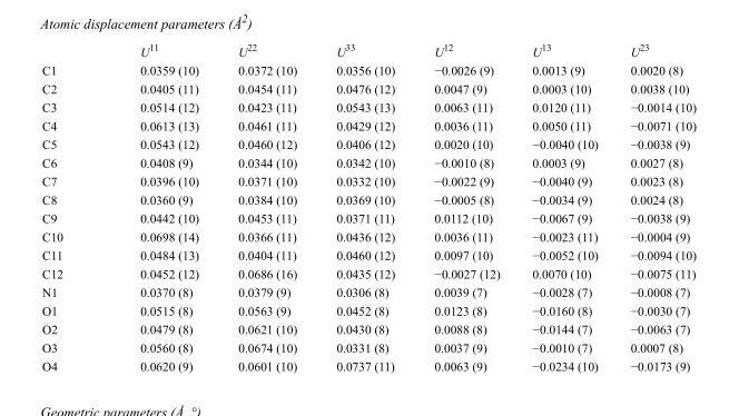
<table><thead><tr><td></td><td>U<sup>11</sup></td><td>U<sup>22</sup></td><td>U<sup>33</sup></td><td>U<sup>12</sup></td><td>U<sup>13</sup></td><td>U<sup>23</sup></td></tr></thead><tbody><tr><td>C1</td><td>0.0359 (10)</td><td>0.0372 (10)</td><td>0.0356 (10)</td><td>−0.0026 (9)</td><td>0.0013 (9)</td><td>0.0020 (8)</td></tr><tr><td>C2</td><td>0.0405 (11)</td><td>0.0454 (11)</td><td>0.0476 (12)</td><td>0.0047 (9)</td><td>0.0003 (10)</td><td>0.0038 (10)</td></tr><tr><td>C3</td><td>0.0514 (12)</td><td>0.0423 (11)</td><td>0.0543 (13)</td><td>0.0063 (11)</td><td>0.0120 (11)</td><td>−0.0014 (10)</td></tr><tr><td>C4</td><td>0.0613 (13)</td><td>0.0461 (11)</td><td>0.0429 (12)</td><td>0.0036 (11)</td><td>0.0050 (11)</td><td>−0.0071 (10)</td></tr><tr><td>C5</td><td>0.0543 (12)</td><td>0.0460 (12)</td><td>0.0406 (12)</td><td>0.0020 (10)</td><td>−0.0040 (10)</td><td>−0.0038 (9)</td></tr><tr><td>C6</td><td>0.0408 (9)</td><td>0.0344 (10)</td><td>0.0342 (10)</td><td>−0.0010 (8)</td><td>0.0003 (9)</td><td>0.0027 (8)</td></tr><tr><td>C7</td><td>0.0396 (10)</td><td>0.0371 (10)</td><td>0.0332 (10)</td><td>−0.0022 (9)</td><td>−0.0040 (9)</td><td>0.0023 (8)</td></tr><tr><td>C8</td><td>0.0360 (9)</td><td>0.0384 (10)</td><td>0.0369 (10)</td><td>−0.0005 (8)</td><td>−0.0034 (9)</td><td>0.0024 (8)</td></tr><tr><td>C9</td><td>0.0442 (10)</td><td>0.0453 (11)</td><td>0.0371 (11)</td><td>0.0112 (10)</td><td>−0.0067 (9)</td><td>−0.0038 (9)</td></tr><tr><td>C10</td><td>0.0698 (14)</td><td>0.0366 (11)</td><td>0.0436 (12)</td><td>0.0036 (11)</td><td>−0.0023 (11)</td><td>−0.0004 (9)</td></tr><tr><td>C11</td><td>0.0484 (13)</td><td>0.0404 (11)</td><td>0.0460 (12)</td><td>0.0097 (10)</td><td>−0.0052 (10)</td><td>−0.0094 (10)</td></tr><tr><td>C12</td><td>0.0452 (12)</td><td>0.0686 (16)</td><td>0.0435 (12)</td><td>−0.0027 (12)</td><td>0.0070 (10)</td><td>−0.0075 (11)</td></tr><tr><td>N1</td><td>0.0370 (8)</td><td>0.0379 (9)</td><td>0.0306 (8)</td><td>0.0039 (7)</td><td>−0.0028 (7)</td><td>−0.0008 (7)</td></tr><tr><td>O1</td><td>0.0515 (8)</td><td>0.0563 (9)</td><td>0.0452 (8)</td><td>0.0123 (8)</td><td>−0.0160 (8)</td><td>−0.0030 (7)</td></tr><tr><td>O2</td><td>0.0479 (8)</td><td>0.0621 (10)</td><td>0.0430 (8)</td><td>0.0088 (8)</td><td>−0.0144 (7)</td><td>−0.0063 (7)</td></tr><tr><td>O3</td><td>0.0560 (8)</td><td>0.0674 (10)</td><td>0.0331 (8)</td><td>0.0037 (9)</td><td>−0.0010 (7)</td><td>0.0007 (8)</td></tr><tr><td>O4</td><td>0.0620 (9)</td><td>0.0601 (10)</td><td>0.0737 (11)</td><td>0.0063 (9)</td><td>−0.0234 (10)</td><td>−0.0173 (9)</td></tr></tbody></table>